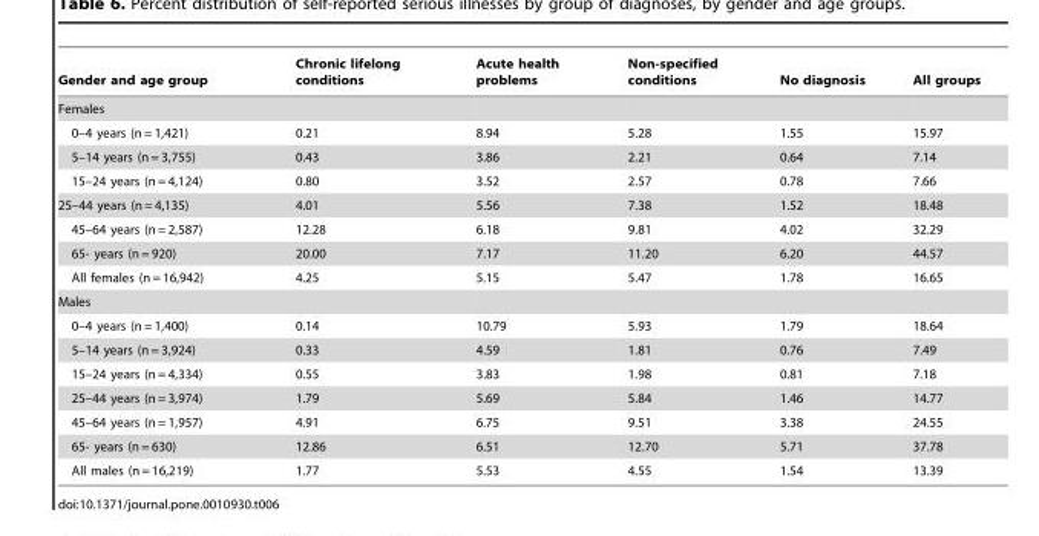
<table><thead><tr><td>Gender and age group</td><td>Chronic lifelong conditions</td><td>Acute health problems</td><td>Non-specified conditions</td><td>No diagnosis</td><td>All groups</td></tr></thead><tbody><tr><td colspan="6">Females</td></tr><tr><td>0–4 years (n = 1,421)</td><td>0.21</td><td>8.94</td><td>5.28</td><td>1.55</td><td>15.97</td></tr><tr><td>5–14 years (n = 3,755)</td><td>0.43</td><td>3.86</td><td>2.21</td><td>0.64</td><td>7.14</td></tr><tr><td>15–24 years (n = 4,124)</td><td>0.80</td><td>3.52</td><td>2.57</td><td>0.78</td><td>7.66</td></tr><tr><td>25–44 years (n = 4,135)</td><td>4.01</td><td>5.56</td><td>7.38</td><td>1.52</td><td>18.48</td></tr><tr><td>45–64 years (n = 2,587)</td><td>12.28</td><td>6.18</td><td>9.81</td><td>4.02</td><td>32.29</td></tr><tr><td>65- years (n = 920)</td><td>20.00</td><td>7.17</td><td>11.20</td><td>6.20</td><td>44.57</td></tr><tr><td>All females (n = 16,942)</td><td>4.25</td><td>5.15</td><td>5.47</td><td>1.78</td><td>16.65</td></tr><tr><td colspan="6">Males</td></tr><tr><td>0–4 years (n = 1,400)</td><td>0.14</td><td>10.79</td><td>5.93</td><td>1.79</td><td>18.64</td></tr><tr><td>5–14 years (n = 3,924)</td><td>0.33</td><td>4.59</td><td>1.81</td><td>0.76</td><td>7.49</td></tr><tr><td>15–24 years (n = 4,334)</td><td>0.55</td><td>3.83</td><td>1.98</td><td>0.81</td><td>7.18</td></tr><tr><td>25–44 years (n = 3,974)</td><td>1.79</td><td>5.69</td><td>5.84</td><td>1.46</td><td>14.77</td></tr><tr><td>45–64 years (n = 1,957)</td><td>4.91</td><td>6.75</td><td>9.51</td><td>3.38</td><td>24.55</td></tr><tr><td>65- years (n = 630)</td><td>12.86</td><td>6.51</td><td>12.70</td><td>5.71</td><td>37.78</td></tr><tr><td>All males (n = 16,219)</td><td>1.77</td><td>5.53</td><td>4.55</td><td>1.54</td><td>13.39</td></tr></tbody></table>